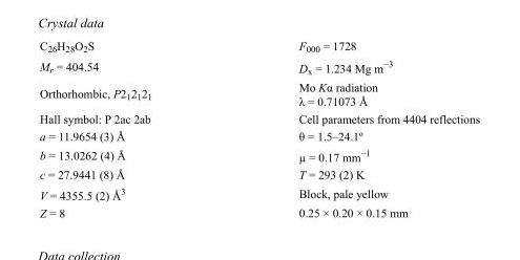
<table><tbody><tr><td>C<sub>26</sub>H<sub>28</sub>O<sub>2</sub>S</td><td>F000 = 1728</td></tr><tr><td>M<sub>r</sub> = 404.54</td><td>D<sub>x</sub> = 1.234 Mg m<sup>−3</sup></td></tr><tr><td>Orthorhombic, P2<sub>1</sub>2<sub>1</sub>2<sub>1</sub></td><td>Mo Kα radiation λ = 0.71073 Å</td></tr><tr><td>Hall symbol: P 2ac 2ab</td><td>Cell parameters from 4404 reflections</td></tr><tr><td>a = 11.9654 (3) Å</td><td>θ = 1.5–24.1º</td></tr><tr><td>b = 13.0262 (4) Å</td><td>µ = 0.17 mm<sup>−1</sup></td></tr><tr><td>c = 27.9441 (8) Å</td><td>T = 293 (2) K</td></tr><tr><td>V = 4355.5 (2) Å<sup>3</sup></td><td>Block, pale yellow</td></tr><tr><td>Z = 8</td><td>0.25 × 0.20 × 0.15 mm</td></tr></tbody></table>